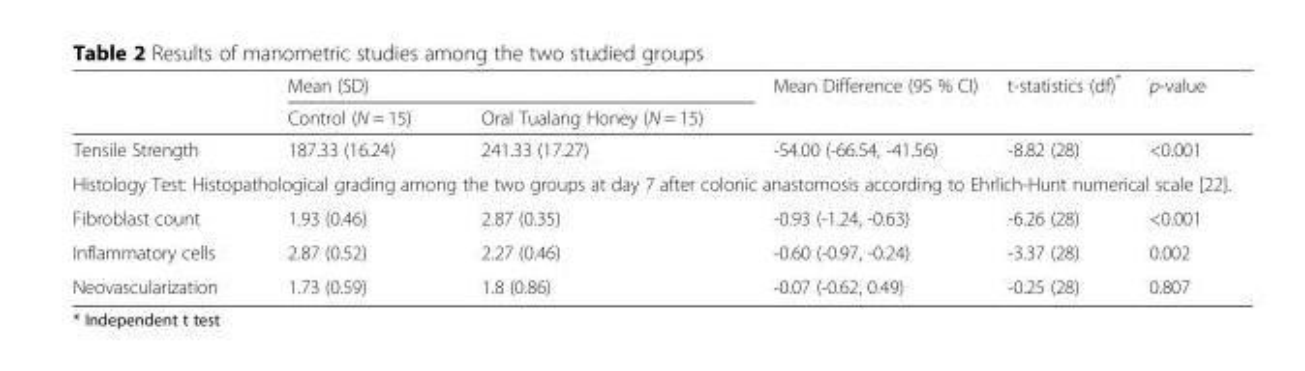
<table><thead><tr><td rowspan="2"></td><td colspan="2">Mean (SD)</td><td rowspan="2">Mean Difference (95 % CI)</td><td rowspan="2">t-statistics (df)*</td><td rowspan="2">p-value</td></tr><tr><td>Control (N = 15)</td><td>Oral Tualang Honey (N = 15)</td></tr></thead><tbody><tr><td>Tensile Strength</td><td>187.33 (16.24)</td><td>241.33 (17.27)</td><td>-54.00 (-66.54, -41.56)</td><td>-8.82 (28)</td><td>&lt;0.001</td></tr><tr><td colspan="6">Histology Test: Histopathological grading among the two groups at day 7 after colonic anastomosis according to Ehrlich-Hunt numerical scale [22].</td></tr><tr><td>Fibroblast count</td><td>1.93 (0.46)</td><td>2.87 (0.35)</td><td>-0.93 (-1.24, -0.63)</td><td>-6.26 (28)</td><td>&lt;0.001</td></tr><tr><td>Inflammatory cells</td><td>2.87 (0.52)</td><td>2.27 (0.46)</td><td>-0.60 (-0.97, -0.24)</td><td>-3.37 (28)</td><td>0.002</td></tr><tr><td>Neovascularization</td><td>1.73 (0.59)</td><td>1.8 (0.86)</td><td>-0.07 (-0.62, 0.49)</td><td>-0.25 (28)</td><td>0.807</td></tr></tbody></table>